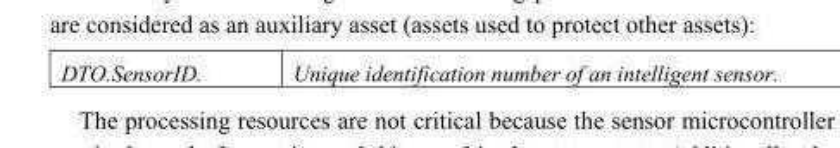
<table><tbody><tr><td>DTO.SensorID.</td><td>Unique identification number of an intelligent sensor.</td></tr></tbody></table>